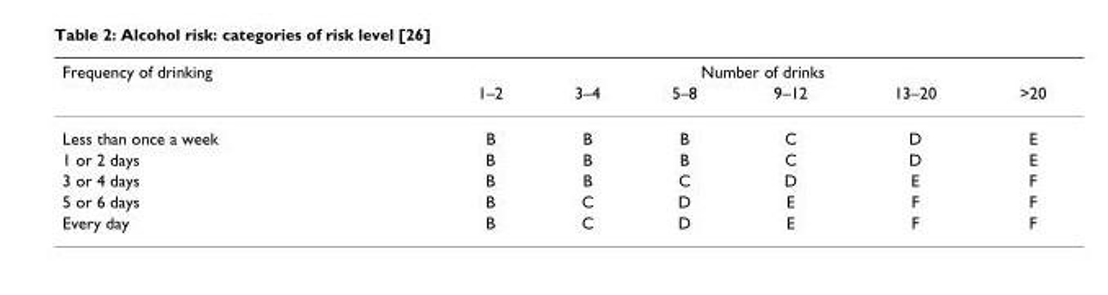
<table><thead><tr><td rowspan="2">Frequency of drinking</td><td colspan="6">Number of drinks</td></tr><tr><td>1–2</td><td>3–4</td><td>5–8</td><td>9–12</td><td>13–20</td><td>&gt;20</td></tr></thead><tbody><tr><td>Less than once a week</td><td>B</td><td>B</td><td>B</td><td>C</td><td>D</td><td>E</td></tr><tr><td>1 or 2 days</td><td>B</td><td>B</td><td>B</td><td>C</td><td>D</td><td>E</td></tr><tr><td>3 or 4 days</td><td>B</td><td>B</td><td>C</td><td>D</td><td>E</td><td>F</td></tr><tr><td>5 or 6 days</td><td>B</td><td>C</td><td>D</td><td>E</td><td>F</td><td>F</td></tr><tr><td>Every day</td><td>B</td><td>C</td><td>D</td><td>E</td><td>F</td><td>F</td></tr></tbody></table>